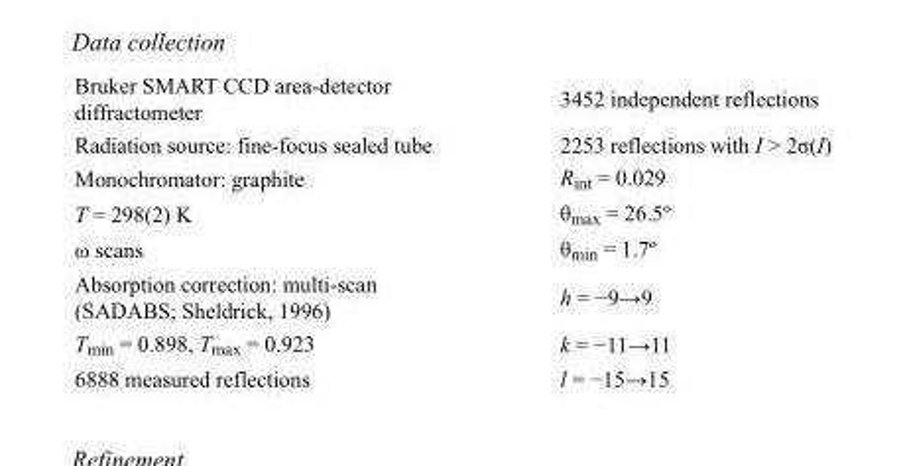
<table><tbody><tr><td>Bruker SMART CCD area-detector diffractometer</td><td>3452 independent reflections</td></tr><tr><td>Radiation source: fine-focus sealed tube</td><td>2253 reflections with I &gt; 2σ(I)</td></tr><tr><td>Monochromator: graphite</td><td>R<sub>int</sub> = 0.029</td></tr><tr><td>T = 298(2) K</td><td>θ<sub>max</sub> = 26.5º</td></tr><tr><td>ω scans</td><td>θ<sub>min</sub> = 1.7º</td></tr><tr><td>Absorption correction: multi-scan (SADABS; Sheldrick, 1996)</td><td>h = −9→9</td></tr><tr><td>T<sub>min</sub> = 0.898, T<sub>max</sub> = 0.923</td><td>k = −11→11</td></tr><tr><td>6888 measured reflections</td><td>l = −15→15</td></tr></tbody></table>